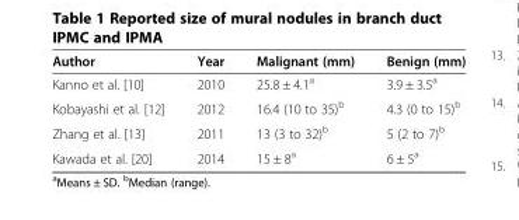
<table><thead><tr><td>Author</td><td>Year</td><td>Malignant (mm)</td><td>Benign (mm)</td></tr></thead><tbody><tr><td>Kanno et al. [10]</td><td>2010</td><td>25.8 ± 4.1<sup>a</sup></td><td>3.9 ± 3.5<sup>a</sup></td></tr><tr><td>Kobayashi et al. [12]</td><td>2012</td><td>16.4 (10 to 35)<sup>b</sup></td><td>4.3 (0 to 15)<sup>b</sup></td></tr><tr><td>Zhang et al. [13]</td><td>2011</td><td>13 (3 to 32)<sup>b</sup></td><td>5 (2 to 7)<sup>b</sup></td></tr><tr><td>Kawada et al. [20]</td><td>2014</td><td>15 ± 8<sup>a</sup></td><td>6 ± 5<sup>a</sup></td></tr></tbody></table>